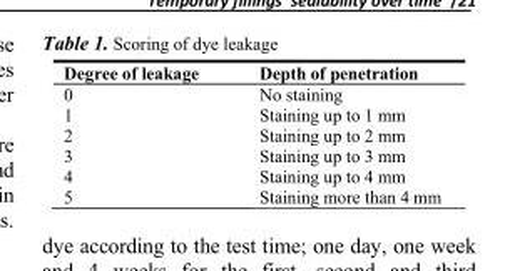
<table><thead><tr><td>Degree of leakage</td><td>Depth of penetration</td></tr></thead><tbody><tr><td>0</td><td>No staining</td></tr><tr><td>1</td><td>Staining up to 1 mm</td></tr><tr><td>2</td><td>Staining up to 2 mm</td></tr><tr><td>3</td><td>Staining up to 3 mm</td></tr><tr><td>4</td><td>Staining up to 4 mm</td></tr><tr><td>5</td><td>Staining more than 4 mm</td></tr></tbody></table>